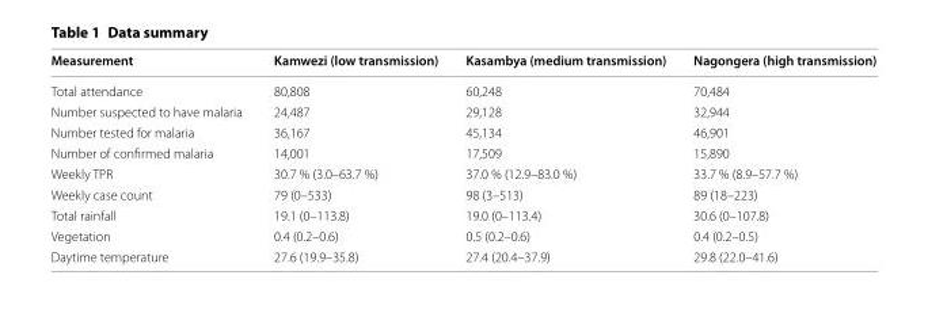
<table><thead><tr><td>Measurement</td><td>Kamwezi (low transmission)</td><td>Kasambya (medium transmission)</td><td>Nagongera (high transmission)</td></tr></thead><tbody><tr><td>Total attendance</td><td>80,808</td><td>60,248</td><td>70,484</td></tr><tr><td>Number suspected to have malaria</td><td>24,487</td><td>29,128</td><td>32,944</td></tr><tr><td>Number tested for malaria</td><td>36,167</td><td>45,134</td><td>46,901</td></tr><tr><td>Number of confirmed malaria</td><td>14,001</td><td>17,509</td><td>15,890</td></tr><tr><td>Weekly TPR</td><td>30.7 % (3.0–63.7 %)</td><td>37.0 % (12.9–83.0 %)</td><td>33.7 % (8.9–57.7 %)</td></tr><tr><td>Weekly case count</td><td>79 (0–533)</td><td>98 (3–513)</td><td>89 (18–223)</td></tr><tr><td>Total rainfall</td><td>19.1 (0–113.8)</td><td>19.0 (0–113.4)</td><td>30.6 (0–107.8)</td></tr><tr><td>Vegetation</td><td>0.4 (0.2–0.6)</td><td>0.5 (0.2–0.6)</td><td>0.4 (0.2–0.5)</td></tr><tr><td>Daytime temperature</td><td>27.6 (19.9–35.8)</td><td>27.4 (20.4–37.9)</td><td>29.8 (22.0–41.6)</td></tr></tbody></table>